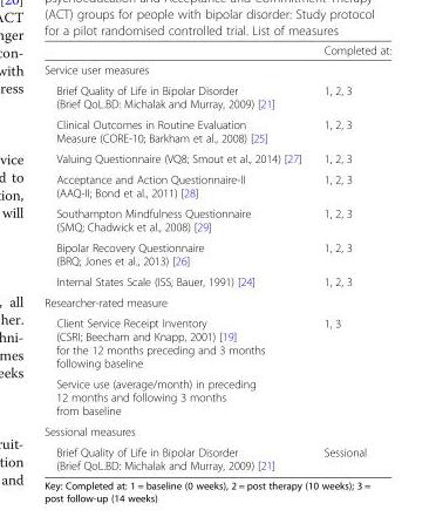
<table><thead><tr><td></td><td>Completed at:</td></tr></thead><tbody><tr><td colspan="2">Service user measures</td></tr><tr><td>Brief Quality of Life in Bipolar Disorder (Brief QoL.BD: Michalak and Murray, 2009) [21]</td><td>1, 2, 3</td></tr><tr><td>Clinical Outcomes in Routine Evaluation Measure (CORE-10; Barkham et al., 2008) [25]</td><td>1, 2, 3</td></tr><tr><td>Valuing Questionnaire (VQ8; Smout et al., 2014) [27]</td><td>1, 2, 3</td></tr><tr><td>Acceptance and Action Questionnaire-II (AAQ-II; Bond et al., 2011) [28]</td><td>1, 2, 3</td></tr><tr><td>Southampton Mindfulness Questionnaire (SMQ; Chadwick et al., 2008) [29]</td><td>1, 2, 3</td></tr><tr><td>Bipolar Recovery Questionnaire (BRQ; Jones et al., 2013) [26]</td><td>1, 2, 3</td></tr><tr><td>Internal States Scale (ISS; Bauer, 1991) [24]</td><td>1, 2, 3</td></tr><tr><td colspan="2">Researcher-rated measure</td></tr><tr><td>Client Service Receipt Inventory (CSRI; Beecham and Knapp, 2001) [19] for the 12 months preceding and 3 months following baseline</td><td>1, 3</td></tr><tr><td colspan="2">Service use (average/month) in preceding 12 months and following 3 months from baseline</td></tr><tr><td colspan="2">Sessional measures</td></tr><tr><td>Brief Quality of Life in Bipolar Disorder (Brief QoL.BD: Michalak and Murray, 2009) [21]</td><td>Sessional</td></tr></tbody></table>